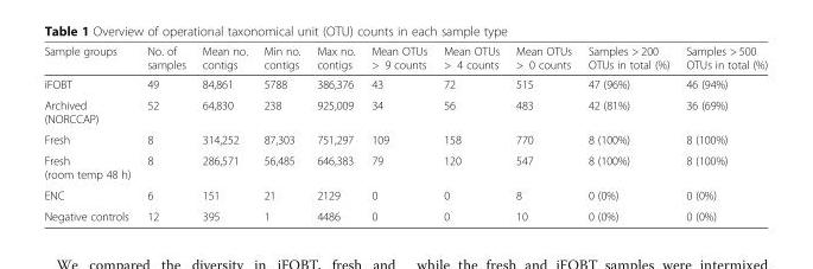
<table><thead><tr><td>Sample groups</td><td>No. of samples</td><td>Mean no. contigs</td><td>Min no. contigs</td><td>Max no. contigs</td><td>Mean OTUs &gt; 9 counts</td><td>Mean OTUs &gt; 4 counts</td><td>Mean OTUs &gt; 0 counts</td><td>Samples &gt; 200 OTUs in total (%)</td><td>Samples &gt; 500 OTUs in total (%)</td></tr></thead><tbody><tr><td>iFOBT</td><td>49</td><td>84,861</td><td>5788</td><td>386,376</td><td>43</td><td>72</td><td>515</td><td>47 (96%)</td><td>46 (94%)</td></tr><tr><td>Archived (NORCCAP)</td><td>52</td><td>64,830</td><td>238</td><td>925,009</td><td>34</td><td>56</td><td>483</td><td>42 (81%)</td><td>36 (69%)</td></tr><tr><td>Fresh</td><td>8</td><td>314,252</td><td>87,303</td><td>751,297</td><td>109</td><td>158</td><td>770</td><td>8 (100%)</td><td>8 (100%)</td></tr><tr><td>Fresh (room temp 48 h)</td><td>8</td><td>286,571</td><td>56,485</td><td>646,383</td><td>79</td><td>120</td><td>547</td><td>8 (100%)</td><td>8 (100%)</td></tr><tr><td>ENC</td><td>6</td><td>151</td><td>21</td><td>2129</td><td>0</td><td>0</td><td>8</td><td>0 (0%)</td><td>0 (0%)</td></tr><tr><td>Negative controls</td><td>12</td><td>395</td><td>1</td><td>4486</td><td>0</td><td>0</td><td>10</td><td>0 (0%)</td><td>0 (0%)</td></tr></tbody></table>